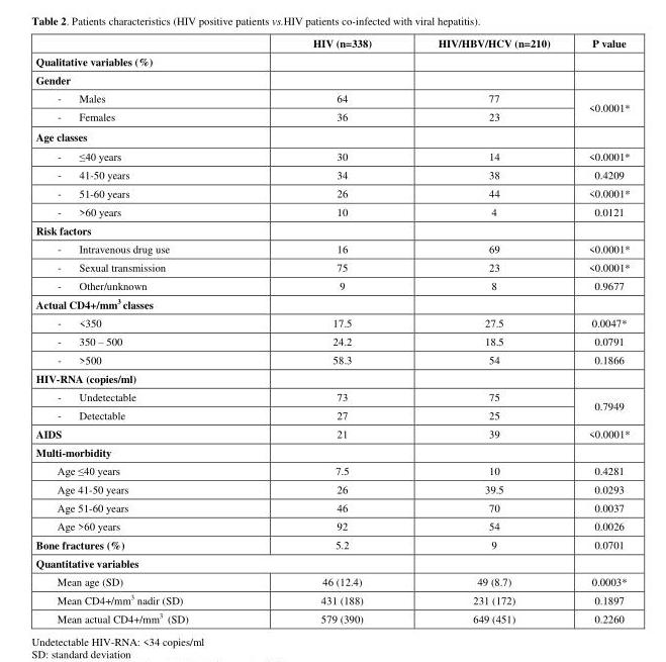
<table><thead><tr><td></td><td>HIV (n=338)</td><td>HIV/HBV/HCV (n=210)</td><td>P value</td></tr></thead><tbody><tr><td colspan="4">Qualitative variables (%)</td></tr><tr><td colspan="4">Gender</td></tr><tr><td>- Males</td><td>64</td><td>77</td><td rowspan="2">&lt;0.0001*</td></tr><tr><td>- Females</td><td>36</td><td>23</td></tr><tr><td colspan="4">Age classes</td></tr><tr><td>- ≤40 years</td><td>30</td><td>14</td><td>&lt;0.0001*</td></tr><tr><td>- 41-50 years</td><td>34</td><td>38</td><td>0.4209</td></tr><tr><td>- 51-60 years</td><td>26</td><td>44</td><td>&lt;0.0001*</td></tr><tr><td>- &gt;60 years</td><td>10</td><td>4</td><td>0.0121</td></tr><tr><td colspan="4">Risk factors</td></tr><tr><td>- Intravenous drug use</td><td>16</td><td>69</td><td>&lt;0.0001*</td></tr><tr><td>- Sexual transmission</td><td>75</td><td>23</td><td>&lt;0.0001*</td></tr><tr><td>- Other/unknown</td><td>9</td><td>8</td><td>0.9677</td></tr><tr><td colspan="4">Actual CD4+/mm<sup>3</sup> classes</td></tr><tr><td>- &lt;350</td><td>17.5</td><td>27.5</td><td>0.0047*</td></tr><tr><td>- 350 – 500</td><td>24.2</td><td>18.5</td><td>0.0791</td></tr><tr><td>- &gt;500</td><td>58.3</td><td>54</td><td>0.1866</td></tr><tr><td colspan="4">HIV-RNA (copies/ml)</td></tr><tr><td>- Undetectable</td><td>73</td><td>75</td><td rowspan="2">0.7949</td></tr><tr><td>- Detectable</td><td>27</td><td>25</td></tr><tr><td>AIDS</td><td>21</td><td>39</td><td>&lt;0.0001*</td></tr><tr><td colspan="4">Multi-morbidity</td></tr><tr><td>Age ≤40 years</td><td>7.5</td><td>10</td><td>0.4281</td></tr><tr><td>Age 41-50 years</td><td>26</td><td>39.5</td><td>0.0293</td></tr><tr><td>Age 51-60 years</td><td>46</td><td>70</td><td>0.0037</td></tr><tr><td>Age &gt;60 years</td><td>92</td><td>54</td><td>0.0026</td></tr><tr><td>Bone fractures (%)</td><td>5.2</td><td>9</td><td>0.0701</td></tr><tr><td colspan="4">Quantitative variables</td></tr><tr><td>Mean age (SD)</td><td>46 (12.4)</td><td>49 (8.7)</td><td>0.0003*</td></tr><tr><td>Mean CD4+/mm<sup>3</sup> nadir (SD)</td><td>431 (188)</td><td>231 (172)</td><td>0.1897</td></tr><tr><td>Mean actual CD4+/mm<sup>3</sup> (SD)</td><td>579 (390)</td><td>649 (451)</td><td>0.2260</td></tr></tbody></table>